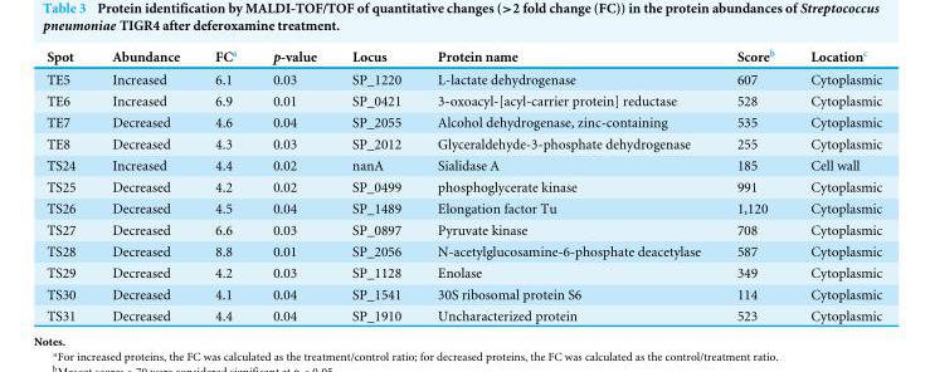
<table><thead><tr><td>Spot</td><td>Abundance</td><td>FC<sup>a</sup></td><td>p-value</td><td>Locus</td><td>Protein name</td><td>Score<sup>b</sup></td><td>Location<sup>c</sup></td></tr></thead><tbody><tr><td>TE5</td><td>Increased</td><td>6.1</td><td>0.03</td><td>SP_1220</td><td>L-lactate dehydrogenase</td><td>607</td><td>Cytoplasmic</td></tr><tr><td>TE6</td><td>Increased</td><td>6.9</td><td>0.01</td><td>SP_0421</td><td>3-oxoacyl-[acyl-carrier protein] reductase</td><td>528</td><td>Cytoplasmic</td></tr><tr><td>TE7</td><td>Decreased</td><td>4.6</td><td>0.04</td><td>SP_2055</td><td>Alcohol dehydrogenase, zinc-containing</td><td>535</td><td>Cytoplasmic</td></tr><tr><td>TE8</td><td>Decreased</td><td>4.3</td><td>0.03</td><td>SP_2012</td><td>Glyceraldehyde-3-phosphate dehydrogenase</td><td>255</td><td>Cytoplasmic</td></tr><tr><td>TS24</td><td>Increased</td><td>4.4</td><td>0.02</td><td>nanA</td><td>Sialidase A</td><td>185</td><td>Cell wall</td></tr><tr><td>TS25</td><td>Decreased</td><td>4.2</td><td>0.02</td><td>SP_0499</td><td>phosphoglycerate kinase</td><td>991</td><td>Cytoplasmic</td></tr><tr><td>TS26</td><td>Decreased</td><td>4.5</td><td>0.04</td><td>SP_1489</td><td>Elongation factor Tu</td><td>1,120</td><td>Cytoplasmic</td></tr><tr><td>TS27</td><td>Decreased</td><td>6.6</td><td>0.03</td><td>SP_0897</td><td>Pyruvate kinase</td><td>708</td><td>Cytoplasmic</td></tr><tr><td>TS28</td><td>Decreased</td><td>8.8</td><td>0.01</td><td>SP_2056</td><td>N-acetylglucosamine-6-phosphate deacetylase</td><td>587</td><td>Cytoplasmic</td></tr><tr><td>TS29</td><td>Decreased</td><td>4.2</td><td>0.03</td><td>SP_1128</td><td>Enolase</td><td>349</td><td>Cytoplasmic</td></tr><tr><td>TS30</td><td>Decreased</td><td>4.1</td><td>0.04</td><td>SP_1541</td><td>30S ribosomal protein S6</td><td>114</td><td>Cytoplasmic</td></tr><tr><td>TS31</td><td>Decreased</td><td>4.4</td><td>0.04</td><td>SP_1910</td><td>Uncharacterized protein</td><td>523</td><td>Cytoplasmic</td></tr></tbody></table>